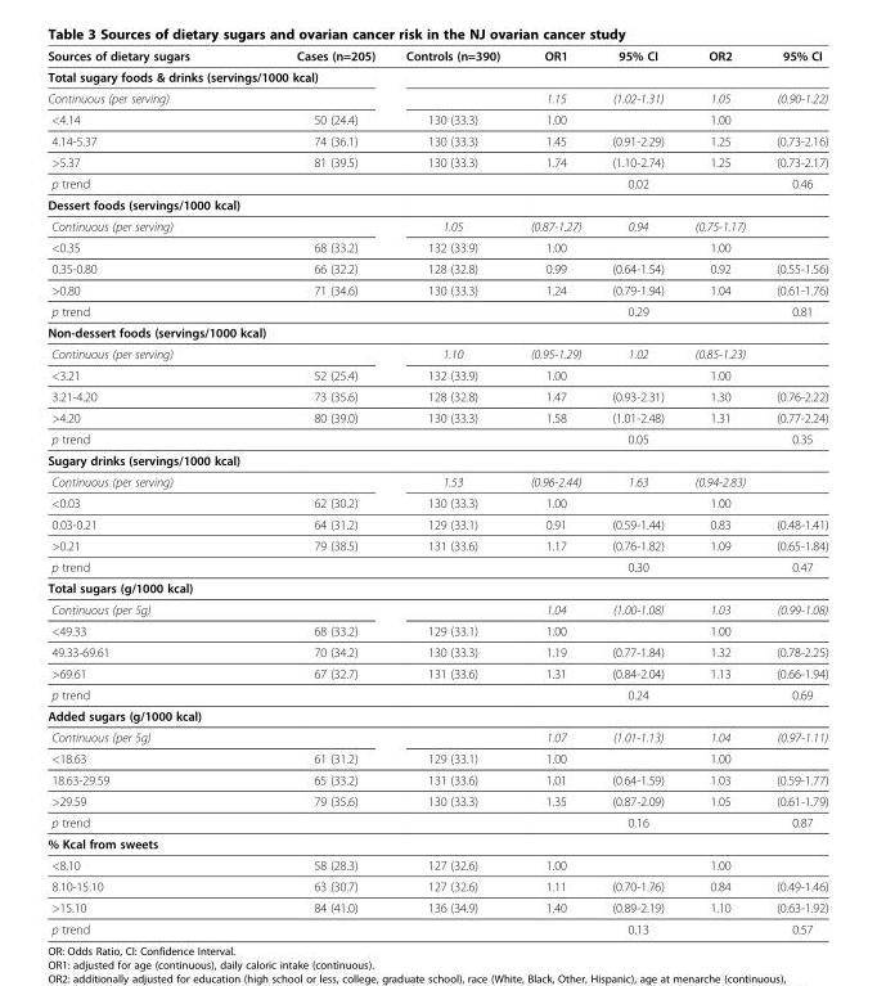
<table><thead><tr><td>Sources of dietary sugars</td><td>Cases (n=205)</td><td>Controls (n=390)</td><td>OR1</td><td>95% CI</td><td>OR2</td><td>95% CI</td></tr></thead><tbody><tr><td colspan="7">Total sugary foods &amp; drinks (servings/1000 kcal)</td></tr><tr><td>Continuous (per serving)</td><td></td><td></td><td>1.15</td><td>(1.02-1.31)</td><td>1.05</td><td>(0.90-1.22)</td></tr><tr><td>&lt;4.14</td><td>50 (24.4)</td><td>130 (33.3)</td><td>1.00</td><td></td><td>1.00</td><td></td></tr><tr><td>4.14-5.37</td><td>74 (36.1)</td><td>130 (33.3)</td><td>1.45</td><td>(0.91-2.29)</td><td>1.25</td><td>(0.73-2.16)</td></tr><tr><td>&gt;5.37</td><td>81 (39.5)</td><td>130 (33.3)</td><td>1.74</td><td>(1.10-2.74)</td><td>1.25</td><td>(0.73-2.17)</td></tr><tr><td>p trend</td><td></td><td></td><td></td><td>0.02</td><td></td><td>0.46</td></tr><tr><td colspan="7">Dessert foods (servings/1000 kcal)</td></tr><tr><td>Continuous (per serving)</td><td></td><td>1.05</td><td>(0.87-1.27)</td><td>0.94</td><td>(0.75-1.17)</td><td></td></tr><tr><td>&lt;0.35</td><td>68 (33.2)</td><td>132 (33.9)</td><td>1.00</td><td></td><td>1.00</td><td></td></tr><tr><td>0.35-0.80</td><td>66 (32.2)</td><td>128 (32.8)</td><td>0.99</td><td>(0.64-1.54)</td><td>0.92</td><td>(0.55-1.56)</td></tr><tr><td>&gt;0.80</td><td>71 (34.6)</td><td>130 (33.3)</td><td>1.24</td><td>(0.79-1.94)</td><td>1.04</td><td>(0.61-1.76)</td></tr><tr><td>p trend</td><td></td><td></td><td></td><td>0.29</td><td></td><td>0.81</td></tr><tr><td colspan="7">Non-dessert foods (servings/1000 kcal)</td></tr><tr><td>Continuous (per serving)</td><td></td><td>1.10</td><td>(0.95-1.29)</td><td>1.02</td><td>(0.85-1.23)</td><td></td></tr><tr><td>&lt;3.21</td><td>52 (25.4)</td><td>132 (33.9)</td><td>1.00</td><td></td><td>1.00</td><td></td></tr><tr><td>3.21-4.20</td><td>73 (35.6)</td><td>128 (32.8)</td><td>1.47</td><td>(0.93-2.31)</td><td>1.30</td><td>(0.76-2.22)</td></tr><tr><td>&gt;4.20</td><td>80 (39.0)</td><td>130 (33.3)</td><td>1.58</td><td>(1.01-2.48)</td><td>1.31</td><td>(0.77-2.24)</td></tr><tr><td>p trend</td><td></td><td></td><td></td><td>0.05</td><td></td><td>0.35</td></tr><tr><td colspan="7">Sugary drinks (servings/1000 kcal)</td></tr><tr><td>Continuous (per serving)</td><td></td><td>1.53</td><td>(0.96-2.44)</td><td>1.63</td><td>(0.94-2.83)</td><td></td></tr><tr><td>&lt;0.03</td><td>62 (30.2)</td><td>130 (33.3)</td><td>1.00</td><td></td><td>1.00</td><td></td></tr><tr><td>0.03-0.21</td><td>64 (31.2)</td><td>129 (33.1)</td><td>0.91</td><td>(0.59-1.44)</td><td>0.83</td><td>(0.48-1.41)</td></tr><tr><td>&gt;0.21</td><td>79 (38.5)</td><td>131 (33.6)</td><td>1.17</td><td>(0.76-1.82)</td><td>1.09</td><td>(0.65-1.84)</td></tr><tr><td>p trend</td><td></td><td></td><td></td><td>0.30</td><td></td><td>0.47</td></tr><tr><td colspan="7">Total sugars (g/1000 kcal)</td></tr><tr><td>Continuous (per 5g)</td><td></td><td></td><td>1.04</td><td>(1.00-1.08)</td><td>1.03</td><td>(0.99-1.08)</td></tr><tr><td>&lt;49.33</td><td>68 (33.2)</td><td>129 (33.1)</td><td>1.00</td><td></td><td>1.00</td><td></td></tr><tr><td>49.33-69.61</td><td>70 (34.2)</td><td>130 (33.3)</td><td>1.19</td><td>(0.77-1.84)</td><td>1.32</td><td>(0.78-2.25)</td></tr><tr><td>&gt;69.61</td><td>67 (32.7)</td><td>131 (33.6)</td><td>1.31</td><td>(0.84-2.04)</td><td>1.13</td><td>(0.66-1.94)</td></tr><tr><td>p trend</td><td></td><td></td><td></td><td>0.24</td><td></td><td>0.69</td></tr><tr><td colspan="7">Added sugars (g/1000 kcal)</td></tr><tr><td>Continuous (per 5g)</td><td></td><td></td><td>1.07</td><td>(1.01-1.13)</td><td>1.04</td><td>(0.97-1.11)</td></tr><tr><td>&lt;18.63</td><td>61 (31.2)</td><td>129 (33.1)</td><td>1.00</td><td></td><td>1.00</td><td></td></tr><tr><td>18.63-29.59</td><td>65 (33.2)</td><td>131 (33.6)</td><td>1.01</td><td>(0.64-1.59)</td><td>1.03</td><td>(0.59-1.77)</td></tr><tr><td>&gt;29.59</td><td>79 (35.6)</td><td>130 (33.3)</td><td>1.35</td><td>(0.87-2.09)</td><td>1.05</td><td>(0.61-1.79)</td></tr><tr><td>p trend</td><td></td><td></td><td></td><td>0.16</td><td></td><td>0.87</td></tr><tr><td colspan="7">% Kcal from sweets</td></tr><tr><td>&lt;8.10</td><td>58 (28.3)</td><td>127 (32.6)</td><td>1.00</td><td></td><td>1.00</td><td></td></tr><tr><td>8.10-15.10</td><td>63 (30.7)</td><td>127 (32.6)</td><td>1.11</td><td>(0.70-1.76)</td><td>0.84</td><td>(0.49-1.46)</td></tr><tr><td>&gt;15.10</td><td>84 (41.0)</td><td>136 (34.9)</td><td>1.40</td><td>(0.89-2.19)</td><td>1.10</td><td>(0.63-1.92)</td></tr><tr><td>p trend</td><td></td><td></td><td></td><td>0.13</td><td></td><td>0.57</td></tr></tbody></table>